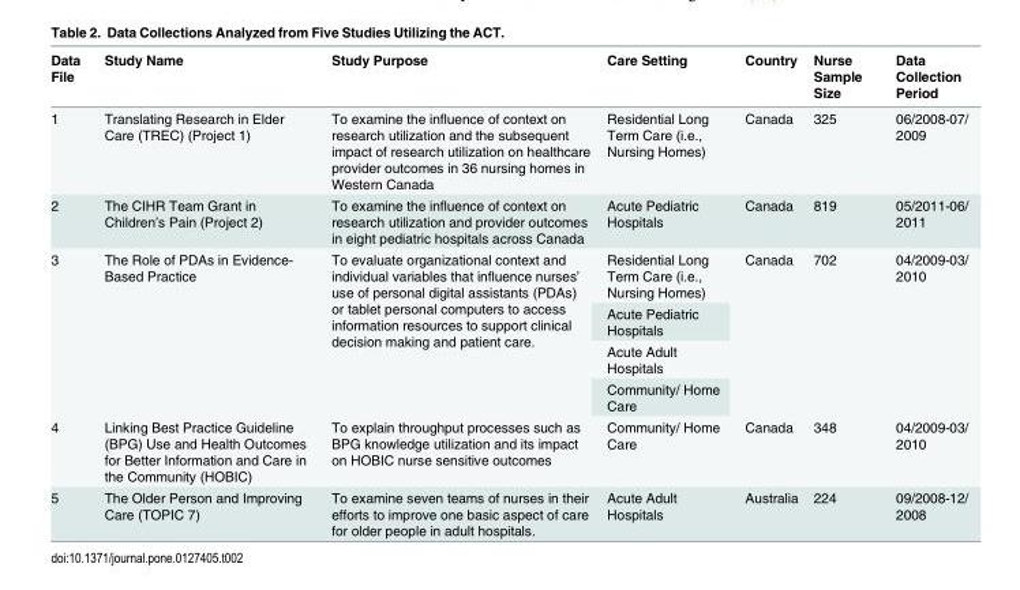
<table><thead><tr><td>Data File</td><td>Study Name</td><td>Study Purpose</td><td>Care Setting</td><td>Country</td><td>Nurse Sample Size</td><td>Data Collection Period</td></tr></thead><tbody><tr><td>1</td><td>Translating Research in Elder Care (TREC) (Project 1)</td><td>To examine the influence of context on research utilization and the subsequent impact of research utilization on healthcare provider outcomes in 36 nursing homes in Western Canada</td><td>Residential Long Term Care (i.e., Nursing Homes)</td><td>Canada</td><td>325</td><td>06/2008-07/ 2009</td></tr><tr><td>2</td><td>The CIHR Team Grant in Children’s Pain (Project 2)</td><td>To examine the influence of context on research utilization and provider outcomes in eight pediatric hospitals across Canada</td><td>Acute Pediatric Hospitals</td><td>Canada</td><td>819</td><td>05/2011-06/ 2011</td></tr><tr><td rowspan="4">3</td><td rowspan="4">The Role of PDAs in Evidence- Based Practice</td><td rowspan="4">To evaluate organizational context and individual variables that influence nurses’ use of personal digital assistants (PDAs) or tablet personal computers to access information resources to support clinical decision making and patient care.</td><td>Residential Long Term Care (i.e., Nursing Homes)</td><td rowspan="4">Canada</td><td rowspan="4">702</td><td rowspan="4">04/2009-03/ 2010</td></tr><tr><td>Acute Pediatric Hospitals</td></tr><tr><td>Acute Adult Hospitals</td></tr><tr><td>Community/ Home Care</td></tr><tr><td>4</td><td>Linking Best Practice Guideline (BPG) Use and Health Outcomes for Better Information and Care in the Community (HOBIC)</td><td>To explain throughput processes such as BPG knowledge utilization and its impact on HOBIC nurse sensitive outcomes</td><td>Community/ Home Care</td><td>Canada</td><td>348</td><td>04/2009-03/ 2010</td></tr><tr><td>5</td><td>The Older Person and Improving Care (TOPIC 7)</td><td>To examine seven teams of nurses in their efforts to improve one basic aspect of care for older people in adult hospitals.</td><td>Acute Adult Hospitals</td><td>Australia</td><td>224</td><td>09/2008-12/ 2008</td></tr></tbody></table>